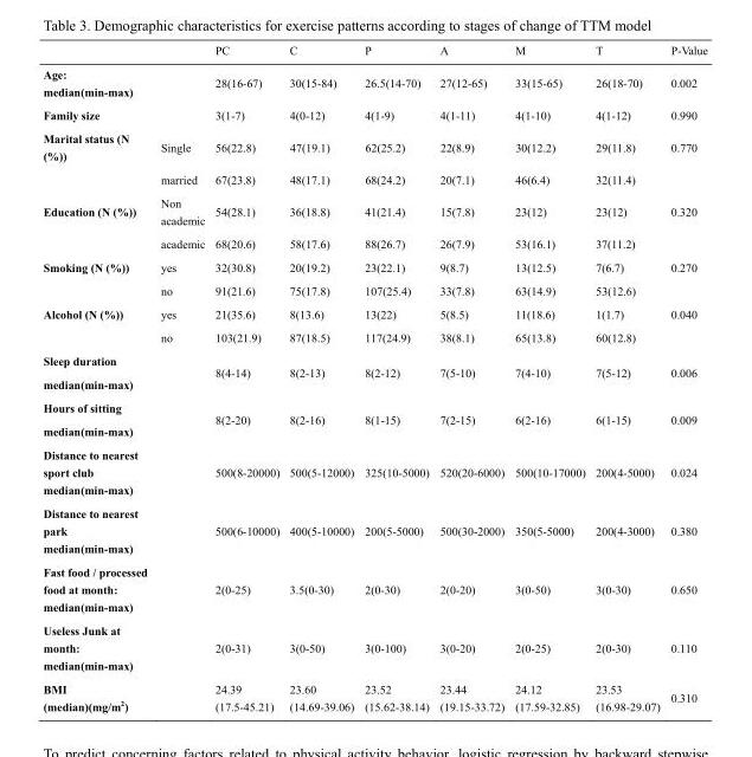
<table><thead><tr><td></td><td></td><td>PC</td><td>C</td><td>P</td><td>A</td><td>M</td><td>T</td><td>P-Value</td></tr></thead><tbody><tr><td>Age: median(min-max)</td><td></td><td>28(16-67)</td><td>30(15-84)</td><td>26.5(14-70)</td><td>27(12-65)</td><td>33(15-65)</td><td>26(18-70)</td><td>0.002</td></tr><tr><td>Family size</td><td></td><td>3(1-7)</td><td>4(0-12)</td><td>4(1-9)</td><td>4(1-11)</td><td>4(1-10)</td><td>4(1-12)</td><td>0.990</td></tr><tr><td rowspan="2">Marital status (N (%))</td><td>Single</td><td>56(22.8)</td><td>47(19.1)</td><td>62(25.2)</td><td>22(8.9)</td><td>30(12.2)</td><td>29(11.8)</td><td>0.770</td></tr><tr><td>married</td><td>67(23.8)</td><td>48(17.1)</td><td>68(24.2)</td><td>20(7.1)</td><td>46(6.4)</td><td>32(11.4)</td><td></td></tr><tr><td rowspan="2">Education (N (%))</td><td>Non academic</td><td>54(28.1)</td><td>36(18.8)</td><td>41(21.4)</td><td>15(7.8)</td><td>23(12)</td><td>23(12)</td><td>0.320</td></tr><tr><td>academic</td><td>68(20.6)</td><td>58(17.6)</td><td>88(26.7)</td><td>26(7.9)</td><td>53(16.1)</td><td>37(11.2)</td><td></td></tr><tr><td rowspan="2">Smoking (N (%))</td><td>yes</td><td>32(30.8)</td><td>20(19.2)</td><td>23(22.1)</td><td>9(8.7)</td><td>13(12.5)</td><td>7(6.7)</td><td>0.270</td></tr><tr><td>no</td><td>91(21.6)</td><td>75(17.8)</td><td>107(25.4)</td><td>33(7.8)</td><td>63(14.9)</td><td>53(12.6)</td><td></td></tr><tr><td rowspan="2">Alcohol (N (%))</td><td>yes</td><td>21(35.6)</td><td>8(13.6)</td><td>13(22)</td><td>5(8.5)</td><td>11(18.6)</td><td>1(1.7)</td><td>0.040</td></tr><tr><td>no</td><td>103(21.9)</td><td>87(18.5)</td><td>117(24.9)</td><td>38(8.1)</td><td>65(13.8)</td><td>60(12.8)</td><td></td></tr><tr><td>Sleep duration median(min-max)</td><td></td><td>8(4-14)</td><td>8(2-13)</td><td>8(2-12)</td><td>7(5-10)</td><td>7(4-10)</td><td>7(5-12)</td><td>0.006</td></tr><tr><td>Hours of sitting median(min-max)</td><td></td><td>8(2-20)</td><td>8(2-16)</td><td>8(1-15)</td><td>7(2-15)</td><td>6(2-16)</td><td>6(1-15)</td><td>0.009</td></tr><tr><td>Distance to nearest sport club median(min-max)</td><td></td><td>500(8-20000)</td><td>500(5-12000)</td><td>325(10-5000)</td><td>520(20-6000)</td><td>500(10-17000)</td><td>200(4-5000)</td><td>0.024</td></tr><tr><td>Distance to nearest park median(min-max)</td><td></td><td>500(6-10000)</td><td>400(5-10000)</td><td>200(5-5000)</td><td>500(30-2000)</td><td>350(5-5000)</td><td>200(4-3000)</td><td>0.380</td></tr><tr><td>Fast food / processed food at month: median(min-max)</td><td></td><td>2(0-25)</td><td>3.5(0-30)</td><td>2(0-30)</td><td>2(0-20)</td><td>3(0-50)</td><td>3(0-30)</td><td>0.650</td></tr><tr><td>Useless Junk at month: median(min-max)</td><td></td><td>2(0-31)</td><td>3(0-50)</td><td>3(0-100)</td><td>3(0-20)</td><td>2(0-25)</td><td>2(0-30)</td><td>0.110</td></tr><tr><td>BMI (median)(mg/m<sup>2</sup>)</td><td></td><td>24.39 (17.5-45.21)</td><td>23.60 (14.69-39.06)</td><td>23.52 (15.62-38.14)</td><td>23.44 (19.15-33.72)</td><td>24.12 (17.59-32.85)</td><td>23.53 (16.98-29.07)</td><td>0.310</td></tr></tbody></table>